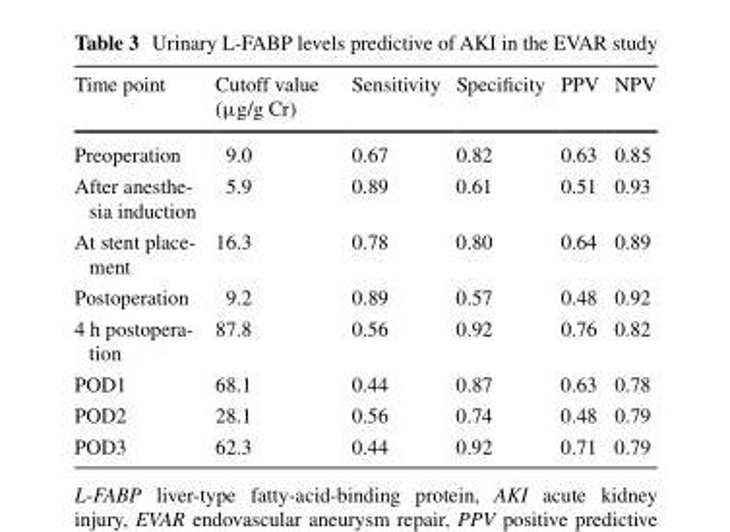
<table><thead><tr><td>Time point</td><td>Cutoff value (μg/g Cr)</td><td>Sensitivity</td><td>Specificity</td><td>PPV</td><td>NPV</td></tr></thead><tbody><tr><td>Preoperation</td><td>9.0</td><td>0.67</td><td>0.82</td><td>0.63</td><td>0.85</td></tr><tr><td>After anesthe- sia induction</td><td>5.9</td><td>0.89</td><td>0.61</td><td>0.51</td><td>0.93</td></tr><tr><td>At stent place- ment</td><td>16.3</td><td>0.78</td><td>0.80</td><td>0.64</td><td>0.89</td></tr><tr><td>Postoperation</td><td>9.2</td><td>0.89</td><td>0.57</td><td>0.48</td><td>0.92</td></tr><tr><td>4 h postopera- tion</td><td>87.8</td><td>0.56</td><td>0.92</td><td>0.76</td><td>0.82</td></tr><tr><td>POD1</td><td>68.1</td><td>0.44</td><td>0.87</td><td>0.63</td><td>0.78</td></tr><tr><td>POD2</td><td>28.1</td><td>0.56</td><td>0.74</td><td>0.48</td><td>0.79</td></tr><tr><td>POD3</td><td>62.3</td><td>0.44</td><td>0.92</td><td>0.71</td><td>0.79</td></tr></tbody></table>